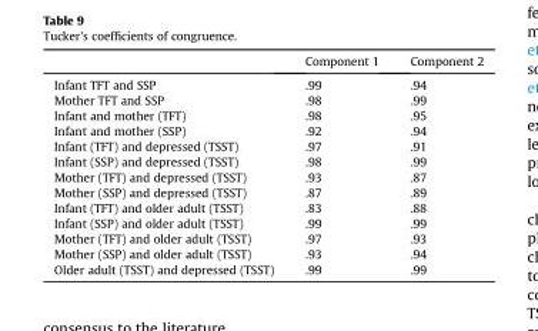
<table><thead><tr><td></td><td>Component 1</td><td>Component 2</td></tr></thead><tbody><tr><td>Infant TFT and SSP</td><td>.99</td><td>.94</td></tr><tr><td>Mother TFT and SSP</td><td>.98</td><td>.99</td></tr><tr><td>Infant and mother (TFT)</td><td>.98</td><td>.95</td></tr><tr><td>Infant and mother (SSP)</td><td>.92</td><td>.94</td></tr><tr><td>Infant (TFT) and depressed (TSST)</td><td>.97</td><td>.91</td></tr><tr><td>Infant (SSP) and depressed (TSST)</td><td>.98</td><td>.99</td></tr><tr><td>Mother (TFT) and depressed (TSST)</td><td>.93</td><td>.87</td></tr><tr><td>Mother (SSP) and depressed (TSST)</td><td>.87</td><td>.89</td></tr><tr><td>Infant (TFT) and older adult (TSST)</td><td>.83</td><td>.88</td></tr><tr><td>Infant (SSP) and older adult (TSST)</td><td>.99</td><td>.99</td></tr><tr><td>Mother (TFT) and older adult (TSST)</td><td>.97</td><td>.93</td></tr><tr><td>Mother (SSP) and older adult (TSST)</td><td>.93</td><td>.94</td></tr><tr><td>Older adult (TSST) and depressed (TSST)</td><td>.99</td><td>.99</td></tr></tbody></table>